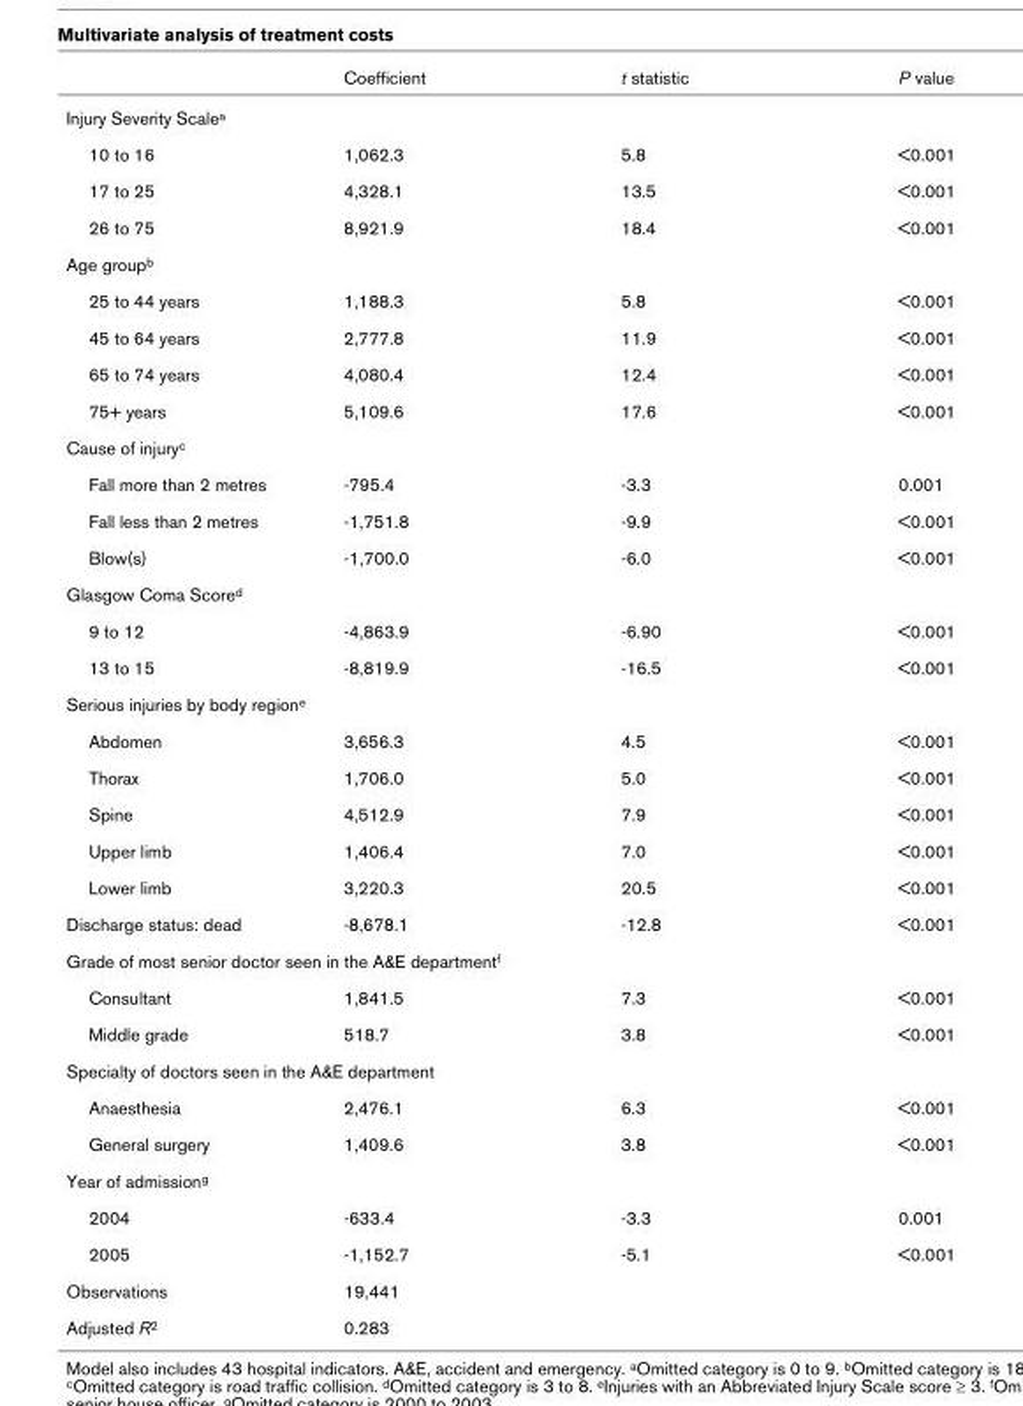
<table><thead><tr><td></td><td>Coefficient</td><td>t statistic</td><td>P value</td></tr></thead><tbody><tr><td colspan="4">Injury Severity Scale<sup>a</sup></td></tr><tr><td>10 to 16</td><td>1,062.3</td><td>5.8</td><td>&lt;0.001</td></tr><tr><td>17 to 25</td><td>4,328.1</td><td>13.5</td><td>&lt;0.001</td></tr><tr><td>26 to 75</td><td>8,921.9</td><td>18.4</td><td>&lt;0.001</td></tr><tr><td colspan="4">Age group<sup>b</sup></td></tr><tr><td>25 to 44 years</td><td>1,188.3</td><td>5.8</td><td>&lt;0.001</td></tr><tr><td>45 to 64 years</td><td>2,777.8</td><td>11.9</td><td>&lt;0.001</td></tr><tr><td>65 to 74 years</td><td>4,080.4</td><td>12.4</td><td>&lt;0.001</td></tr><tr><td>75+ years</td><td>5,109.6</td><td>17.6</td><td>&lt;0.001</td></tr><tr><td colspan="4">Cause of injury<sup>c</sup></td></tr><tr><td>Fall more than 2 metres</td><td>-795.4</td><td>-3.3</td><td>0.001</td></tr><tr><td>Fall less than 2 metres</td><td>-1,751.8</td><td>-9.9</td><td>&lt;0.001</td></tr><tr><td>Blow(s)</td><td>-1,700.0</td><td>-6.0</td><td>&lt;0.001</td></tr><tr><td colspan="4">Glasgow Coma Score<sup>d</sup></td></tr><tr><td>9 to 12</td><td>-4,863.9</td><td>-6.90</td><td>&lt;0.001</td></tr><tr><td>13 to 15</td><td>-8,819.9</td><td>-16.5</td><td>&lt;0.001</td></tr><tr><td colspan="4">Serious injuries by body region<sup>e</sup></td></tr><tr><td>Abdomen</td><td>3,656.3</td><td>4.5</td><td>&lt;0.001</td></tr><tr><td>Thorax</td><td>1,706.0</td><td>5.0</td><td>&lt;0.001</td></tr><tr><td>Spine</td><td>4,512.9</td><td>7.9</td><td>&lt;0.001</td></tr><tr><td>Upper limb</td><td>1,406.4</td><td>7.0</td><td>&lt;0.001</td></tr><tr><td>Lower limb</td><td>3,220.3</td><td>20.5</td><td>&lt;0.001</td></tr><tr><td>Discharge status: dead</td><td>-8,678.1</td><td>-12.8</td><td>&lt;0.001</td></tr><tr><td colspan="4">Grade of most senior doctor seen in the A&amp;E department<sup>f</sup></td></tr><tr><td>Consultant</td><td>1,841.5</td><td>7.3</td><td>&lt;0.001</td></tr><tr><td>Middle grade</td><td>518.7</td><td>3.8</td><td>&lt;0.001</td></tr><tr><td colspan="4">Specialty of doctors seen in the A&amp;E department</td></tr><tr><td>Anaesthesia</td><td>2,476.1</td><td>6.3</td><td>&lt;0.001</td></tr><tr><td>General surgery</td><td>1,409.6</td><td>3.8</td><td>&lt;0.001</td></tr><tr><td colspan="4">Year of admission<sup>g</sup></td></tr><tr><td>2004</td><td>-633.4</td><td>-3.3</td><td>0.001</td></tr><tr><td>2005</td><td>-1,152.7</td><td>-5.1</td><td>&lt;0.001</td></tr><tr><td>Observations</td><td>19,441</td><td></td><td></td></tr><tr><td>Adjusted R<sup>2</sup></td><td>0.283</td><td></td><td></td></tr></tbody></table>